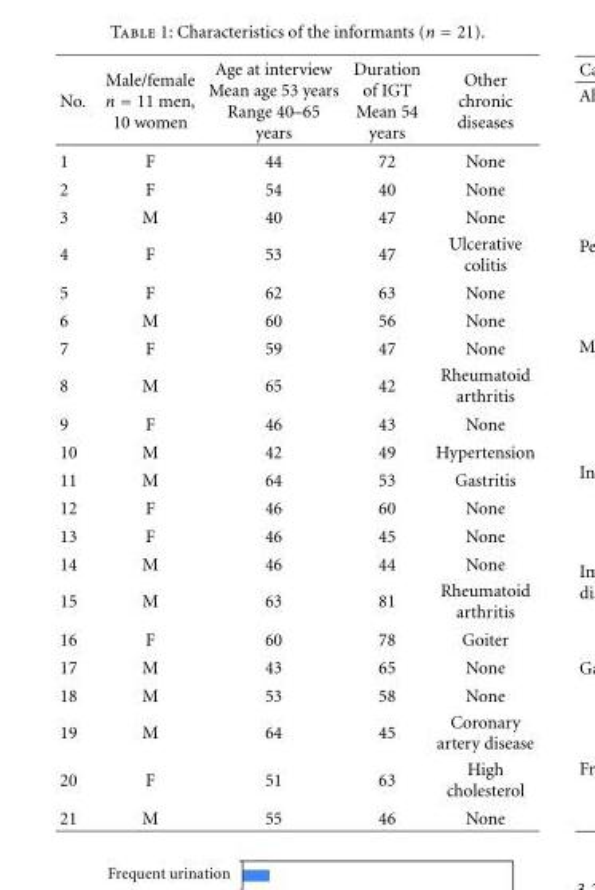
<table><thead><tr><td>No.</td><td>Male/female n = 11 men, 10 women</td><td>Age at interview Mean age 53 years Range 40–65 years</td><td>Duration of IGT Mean 54 years</td><td>Other chronic diseases</td></tr></thead><tbody><tr><td>1</td><td>F</td><td>44</td><td>72</td><td>None</td></tr><tr><td>2</td><td>F</td><td>54</td><td>40</td><td>None</td></tr><tr><td>3</td><td>M</td><td>40</td><td>47</td><td>None</td></tr><tr><td>4</td><td>F</td><td>53</td><td>47</td><td>Ulcerative colitis</td></tr><tr><td>5</td><td>F</td><td>62</td><td>63</td><td>None</td></tr><tr><td>6</td><td>M</td><td>60</td><td>56</td><td>None</td></tr><tr><td>7</td><td>F</td><td>59</td><td>47</td><td>None</td></tr><tr><td>8</td><td>M</td><td>65</td><td>42</td><td>Rheumatoid arthritis</td></tr><tr><td>9</td><td>F</td><td>46</td><td>43</td><td>None</td></tr><tr><td>10</td><td>M</td><td>42</td><td>49</td><td>Hypertension</td></tr><tr><td>11</td><td>M</td><td>64</td><td>53</td><td>Gastritis</td></tr><tr><td>12</td><td>F</td><td>46</td><td>60</td><td>None</td></tr><tr><td>13</td><td>F</td><td>46</td><td>45</td><td>None</td></tr><tr><td>14</td><td>M</td><td>46</td><td>44</td><td>None</td></tr><tr><td>15</td><td>M</td><td>63</td><td>81</td><td>Rheumatoid arthritis</td></tr><tr><td>16</td><td>F</td><td>60</td><td>78</td><td>Goiter</td></tr><tr><td>17</td><td>M</td><td>43</td><td>65</td><td>None</td></tr><tr><td>18</td><td>M</td><td>53</td><td>58</td><td>None</td></tr><tr><td>19</td><td>M</td><td>64</td><td>45</td><td>Coronary artery disease</td></tr><tr><td>20</td><td>F</td><td>51</td><td>63</td><td>High cholesterol</td></tr><tr><td>21</td><td>M</td><td>55</td><td>46</td><td>None</td></tr></tbody></table>